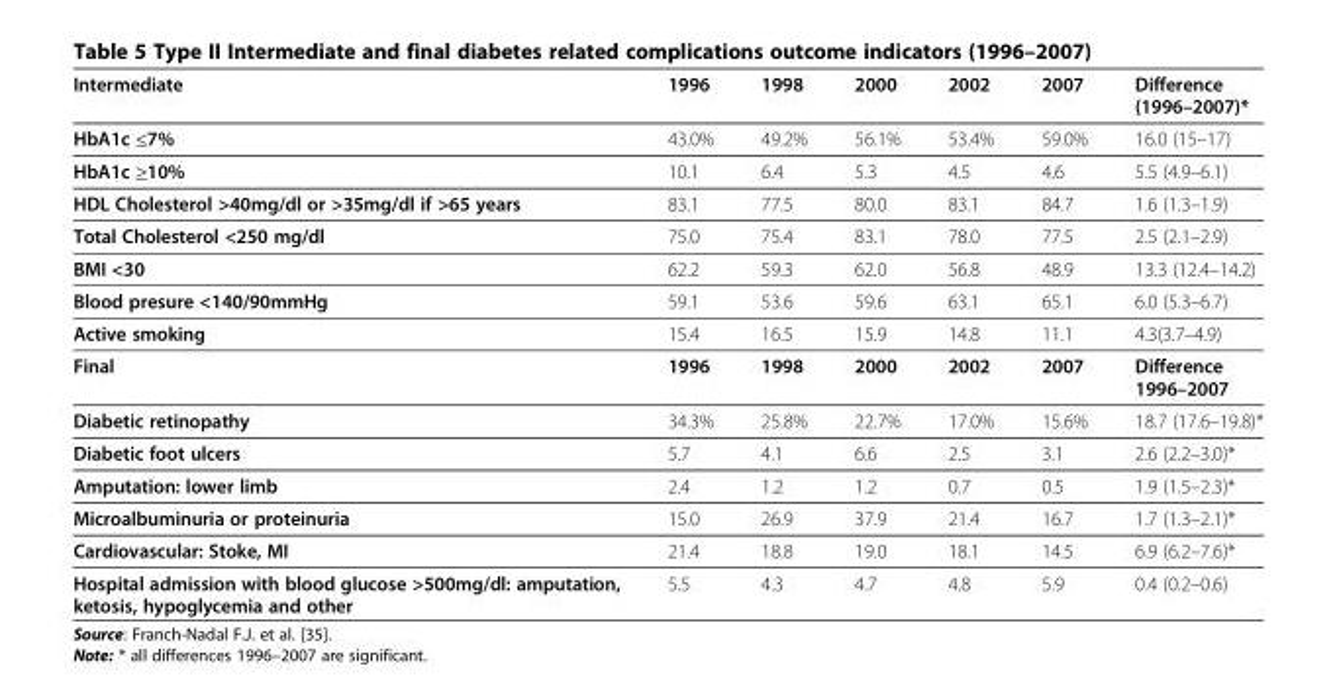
<table><thead><tr><td>Intermediate</td><td>1996</td><td>1998</td><td>2000</td><td>2002</td><td>2007</td><td>Difference (1996–2007)*</td></tr></thead><tbody><tr><td>HbA1c ≤7%</td><td>43.0%</td><td>49.2%</td><td>56.1%</td><td>53.4%</td><td>59.0%</td><td>16.0 (15–17)</td></tr><tr><td>HbA1c ≥10%</td><td>10.1</td><td>6.4</td><td>5.3</td><td>4.5</td><td>4.6</td><td>5.5 (4.9–6.1)</td></tr><tr><td>HDL Cholesterol &gt;40mg/dl or &gt;35mg/dl if &gt;65 years</td><td>83.1</td><td>77.5</td><td>80.0</td><td>83.1</td><td>84.7</td><td>1.6 (1.3–1.9)</td></tr><tr><td>Total Cholesterol &lt;250 mg/dl</td><td>75.0</td><td>75.4</td><td>83.1</td><td>78.0</td><td>77.5</td><td>2.5 (2.1–2.9)</td></tr><tr><td>BMI &lt;30</td><td>62.2</td><td>59.3</td><td>62.0</td><td>56.8</td><td>48.9</td><td>13.3 (12.4–14.2)</td></tr><tr><td>Blood presure &lt;140/90mmHg</td><td>59.1</td><td>53.6</td><td>59.6</td><td>63.1</td><td>65.1</td><td>6.0 (5.3–6.7)</td></tr><tr><td>Active smoking</td><td>15.4</td><td>16.5</td><td>15.9</td><td>14.8</td><td>11.1</td><td>4.3(3.7–4.9)</td></tr><tr><td>Final</td><td>1996</td><td>1998</td><td>2000</td><td>2002</td><td>2007</td><td>Difference 1996–2007</td></tr><tr><td>Diabetic retinopathy</td><td>34.3%</td><td>25.8%</td><td>22.7%</td><td>17.0%</td><td>15.6%</td><td>18.7 (17.6–19.8)*</td></tr><tr><td>Diabetic foot ulcers</td><td>5.7</td><td>4.1</td><td>6.6</td><td>2.5</td><td>3.1</td><td>2.6 (2.2–3.0)*</td></tr><tr><td>Amputation: lower limb</td><td>2.4</td><td>1.2</td><td>1.2</td><td>0.7</td><td>0.5</td><td>1.9 (1.5–2.3)*</td></tr><tr><td>Microalbuminuria or proteinuria</td><td>15.0</td><td>26.9</td><td>37.9</td><td>21.4</td><td>16.7</td><td>1.7 (1.3–2.1)*</td></tr><tr><td>Cardiovascular: Stoke, MI</td><td>21.4</td><td>18.8</td><td>19.0</td><td>18.1</td><td>14.5</td><td>6.9 (6.2–7.6)*</td></tr><tr><td>Hospital admission with blood glucose &gt;500mg/dl: amputation, ketosis, hypoglycemia and other</td><td>5.5</td><td>4.3</td><td>4.7</td><td>4.8</td><td>5.9</td><td>0.4 (0.2–0.6)</td></tr></tbody></table>